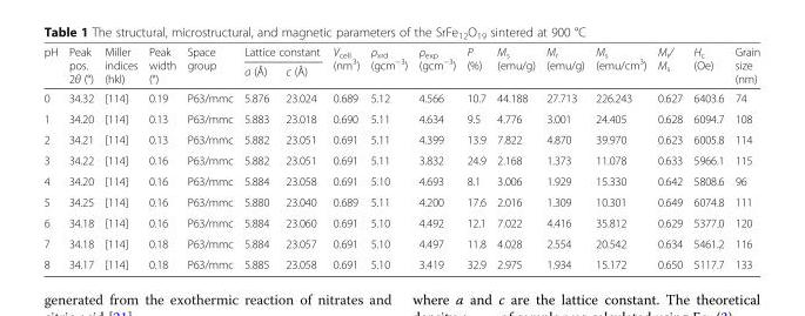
<table><thead><tr><td rowspan="2">pH</td><td rowspan="2">Peak pos. 2θ (°)</td><td rowspan="2">Miller indices (hkl)</td><td rowspan="2">Peak width (°)</td><td rowspan="2">Space group</td><td colspan="2">Lattice constant</td><td rowspan="2">V<sub>cell</sub> (nm<sup>3</sup>)</td><td rowspan="2">ρ<sub>xrd</sub> (gcm<sup>−3</sup>)</td><td rowspan="2">ρ<sub>exp</sub> (gcm<sup>−3</sup>)</td><td rowspan="2">P (%)</td><td rowspan="2">M<sub>s</sub> (emu/g)</td><td rowspan="2">M<sub>r</sub> (emu/g)</td><td rowspan="2">M<sub>s</sub> (emu/cm<sup>3</sup>)</td><td rowspan="2">M<sub>r</sub>/ M<sub>s</sub></td><td rowspan="2">H<sub>c</sub> (Oe)</td><td rowspan="2">Grain size (nm)</td></tr><tr><td>a (Å)</td><td>c (Å)</td></tr></thead><tbody><tr><td>0</td><td>34.32</td><td>[114]</td><td>0.19</td><td>P63/mmc</td><td>5.876</td><td>23.024</td><td>0.689</td><td>5.12</td><td>4.566</td><td>10.7</td><td>44.188</td><td>27.713</td><td>226.243</td><td>0.627</td><td>6403.6</td><td>74</td></tr><tr><td>1</td><td>34.20</td><td>[114]</td><td>0.13</td><td>P63/mmc</td><td>5.883</td><td>23.018</td><td>0.690</td><td>5.11</td><td>4.634</td><td>9.5</td><td>4.776</td><td>3.001</td><td>24.405</td><td>0.628</td><td>6094.7</td><td>108</td></tr><tr><td>2</td><td>34.21</td><td>[114]</td><td>0.13</td><td>P63/mmc</td><td>5.882</td><td>23.051</td><td>0.691</td><td>5.11</td><td>4.399</td><td>13.9</td><td>7.822</td><td>4.870</td><td>39.970</td><td>0.623</td><td>6005.8</td><td>114</td></tr><tr><td>3</td><td>34.22</td><td>[114]</td><td>0.16</td><td>P63/mmc</td><td>5.882</td><td>23.051</td><td>0.691</td><td>5.11</td><td>3.832</td><td>24.9</td><td>2.168</td><td>1.373</td><td>11.078</td><td>0.633</td><td>5966.1</td><td>115</td></tr><tr><td>4</td><td>34.20</td><td>[114]</td><td>0.16</td><td>P63/mmc</td><td>5.884</td><td>23.058</td><td>0.691</td><td>5.10</td><td>4.693</td><td>8.1</td><td>3.006</td><td>1.929</td><td>15.330</td><td>0.642</td><td>5808.6</td><td>96</td></tr><tr><td>5</td><td>34.25</td><td>[114]</td><td>0.16</td><td>P63/mmc</td><td>5.880</td><td>23.040</td><td>0.689</td><td>5.11</td><td>4.200</td><td>17.6</td><td>2.016</td><td>1.309</td><td>10.301</td><td>0.649</td><td>6074.8</td><td>111</td></tr><tr><td>6</td><td>34.18</td><td>[114]</td><td>0.16</td><td>P63/mmc</td><td>5.884</td><td>23.060</td><td>0.691</td><td>5.10</td><td>4.492</td><td>12.1</td><td>7.022</td><td>4.416</td><td>35.812</td><td>0.629</td><td>5377.0</td><td>120</td></tr><tr><td>7</td><td>34.18</td><td>[114]</td><td>0.18</td><td>P63/mmc</td><td>5.884</td><td>23.057</td><td>0.691</td><td>5.10</td><td>4.497</td><td>11.8</td><td>4.028</td><td>2.554</td><td>20.542</td><td>0.634</td><td>5461.2</td><td>116</td></tr><tr><td>8</td><td>34.17</td><td>[114]</td><td>0.18</td><td>P63/mmc</td><td>5.885</td><td>23.058</td><td>0.691</td><td>5.10</td><td>3.419</td><td>32.9</td><td>2.975</td><td>1.934</td><td>15.172</td><td>0.650</td><td>5117.7</td><td>133</td></tr></tbody></table>